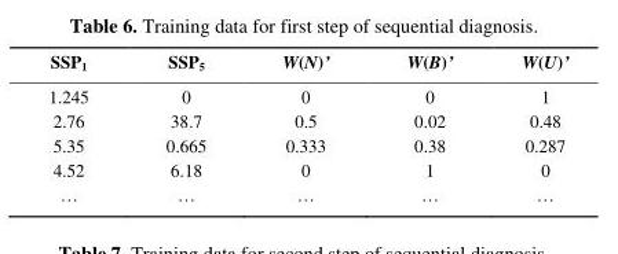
<table><thead><tr><td>SSP<sub>1</sub></td><td>SSP<sub>5</sub></td><td>W(N)’</td><td>W(B)’</td><td>W(U)’</td></tr></thead><tbody><tr><td>1.245</td><td>0</td><td>0</td><td>0</td><td>1</td></tr><tr><td>2.76</td><td>38.7</td><td>0.5</td><td>0.02</td><td>0.48</td></tr><tr><td>5.35</td><td>0.665</td><td>0.333</td><td>0.38</td><td>0.287</td></tr><tr><td>4.52</td><td>6.18</td><td>0</td><td>1</td><td>0</td></tr><tr><td>…</td><td>…</td><td>…</td><td>…</td><td>…</td></tr></tbody></table>